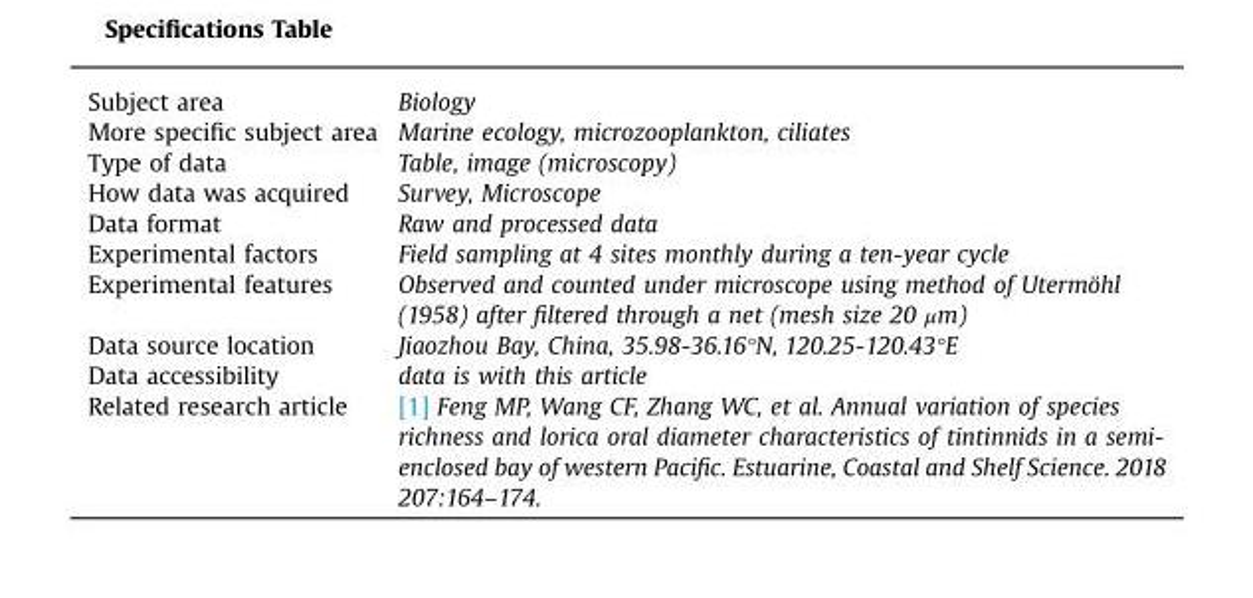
<table><thead><tr><td>Subject area</td><td>Biology</td></tr></thead><tbody><tr><td>More specific subject area</td><td>Marine ecology, microzooplankton, ciliates</td></tr><tr><td>Type of data</td><td>Table, image (microscopy)</td></tr><tr><td>How data was acquired</td><td>Survey, Microscope</td></tr><tr><td>Data format</td><td>Raw and processed data</td></tr><tr><td>Experimental factors</td><td>Field sampling at 4 sites monthly during a ten-year cycle</td></tr><tr><td>Experimental features</td><td>Observed and counted under microscope using method of Utermöhl (1958) after filtered through a net (mesh size 20 μm)</td></tr><tr><td>Data source location</td><td>Jiaozhou Bay, China, 35.98-36.16°N, 120.25-120.43°E</td></tr><tr><td>Data accessibility</td><td>data is with this article</td></tr><tr><td>Related research article</td><td>[1] Feng MP, Wang CF, Zhang WC, et al. Annual variation of species richness and lorica oral diameter characteristics of tintinnids in a semi- enclosed bay of western Pacific. Estuarine, Coastal and Shelf Science. 2018 207:164–174.</td></tr></tbody></table>